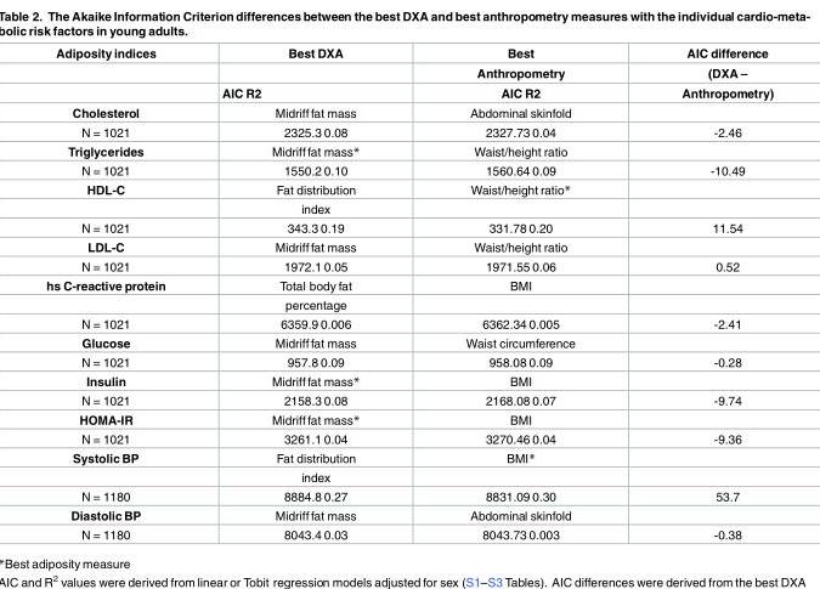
<table><thead><tr><td rowspan="3">Adiposity indices</td><td rowspan="3">Best DXA AIC R2</td><td rowspan="3">Best Anthropometry AIC R2</td><td rowspan="3">AIC difference (DXA – Anthropometry)</td></tr><tr></tr><tr></tr></thead><tbody><tr><td>Cholesterol</td><td>Midriff fat mass</td><td>Abdominal skinfold</td><td></td></tr><tr><td>N = 1021</td><td>2325.3 0.08</td><td>2327.73 0.04</td><td>-2.46</td></tr><tr><td>Triglycerides</td><td>Midriff fat mass*</td><td>Waist/height ratio</td><td></td></tr><tr><td>N = 1021</td><td>1550.2 0.10</td><td>1560.64 0.09</td><td>-10.49</td></tr><tr><td rowspan="2">HDL-C</td><td>Fat distribution</td><td>Waist/height ratio*</td><td></td></tr><tr><td>index</td><td></td><td></td></tr><tr><td>N = 1021</td><td>343.3 0.19</td><td>331.78 0.20</td><td>11.54</td></tr><tr><td>LDL-C</td><td>Midriff fat mass</td><td>Waist/height ratio</td><td></td></tr><tr><td>N = 1021</td><td>1972.1 0.05</td><td>1971.55 0.06</td><td>0.52</td></tr><tr><td rowspan="2">hs C-reactive protein</td><td>Total body fat</td><td>BMI</td><td></td></tr><tr><td>percentage</td><td></td><td></td></tr><tr><td>N = 1021</td><td>6359.9 0.006</td><td>6362.34 0.005</td><td>-2.41</td></tr><tr><td>Glucose</td><td>Midriff fat mass</td><td>Waist circumference</td><td></td></tr><tr><td>N = 1021</td><td>957.8 0.09</td><td>958.08 0.09</td><td>-0.28</td></tr><tr><td>Insulin</td><td>Midriff fat mass*</td><td>BMI</td><td></td></tr><tr><td>N = 1021</td><td>2158.3 0.08</td><td>2168.08 0.07</td><td>-9.74</td></tr><tr><td>HOMA-IR</td><td>Midriff fat mass*</td><td>BMI</td><td></td></tr><tr><td>N = 1021</td><td>3261.1 0.04</td><td>3270.46 0.04</td><td>-9.36</td></tr><tr><td rowspan="2">Systolic BP</td><td>Fat distribution</td><td>BMI*</td><td></td></tr><tr><td>index</td><td></td><td></td></tr><tr><td>N = 1180</td><td>8884.8 0.27</td><td>8831.09 0.30</td><td>53.7</td></tr><tr><td>Diastolic BP</td><td>Midriff fat mass</td><td>Abdominal skinfold</td><td></td></tr><tr><td>N = 1180</td><td>8043.4 0.03</td><td>8043.73 0.003</td><td>-0.38</td></tr></tbody></table>